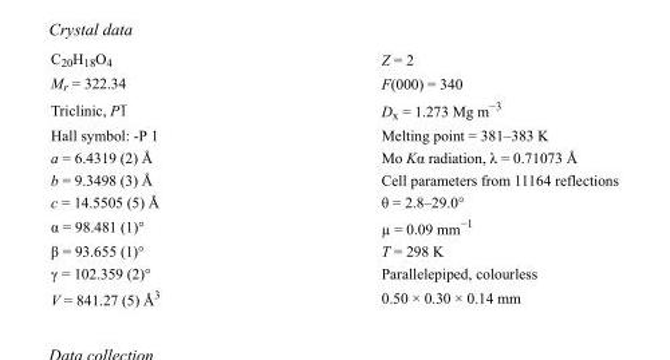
<table><tbody><tr><td>C<sub>20</sub>H<sub>18</sub>O<sub>4</sub></td><td>Z = 2</td></tr><tr><td>M<sub>r</sub> = 322.34</td><td>F(000) = 340</td></tr><tr><td>Triclinic, P1</td><td>D<sub>x</sub> = 1.273 Mg m<sup>−3</sup></td></tr><tr><td>Hall symbol: -P 1</td><td>Melting point = 381–383 K</td></tr><tr><td>a = 6.4319 (2) Å</td><td>Mo Kα radiation, λ = 0.71073 Å</td></tr><tr><td>b = 9.3498 (3) Å</td><td>Cell parameters from 11164 reflections</td></tr><tr><td>c = 14.5505 (5) Å</td><td>θ = 2.8–29.0°</td></tr><tr><td>α = 98.481 (1)°</td><td>µ = 0.09 mm<sup>−1</sup></td></tr><tr><td>β = 93.655 (1)°</td><td>T = 298 K</td></tr><tr><td>γ = 102.359 (2)°</td><td>Parallelepiped, colourless</td></tr><tr><td>V = 841.27 (5) Å<sup>3</sup></td><td>0.50 × 0.30 × 0.14 mm</td></tr></tbody></table>